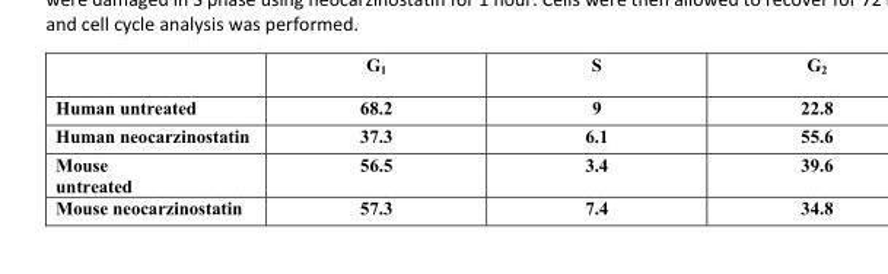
<table><thead><tr><td></td><td>G<sub>1</sub></td><td>S</td><td>G<sub>2</sub></td></tr></thead><tbody><tr><td>Human untreated</td><td>68.2</td><td>9</td><td>22.8</td></tr><tr><td>Human neocarzinostatin</td><td>37.3</td><td>6.1</td><td>55.6</td></tr><tr><td>Mouse untreated</td><td>56.5</td><td>3.4</td><td>39.6</td></tr><tr><td>Mouse neocarzinostatin</td><td>57.3</td><td>7.4</td><td>34.8</td></tr></tbody></table>